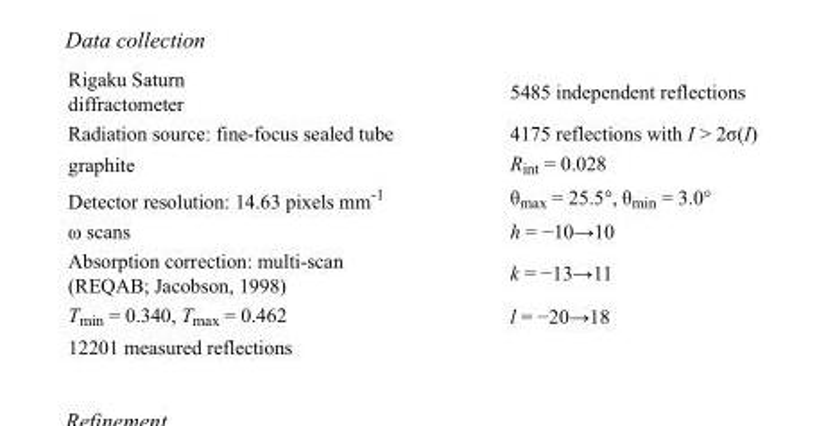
<table><tbody><tr><td>Rigaku Saturn diffractometer</td><td>5485 independent reflections</td></tr><tr><td>Radiation source: fine-focus sealed tube</td><td>4175 reflections with I &gt; 2σ(I)</td></tr><tr><td>graphite</td><td>R<sub>int</sub> = 0.028</td></tr><tr><td>Detector resolution: 14.63 pixels mm<sup>-1</sup></td><td>θ<sub>max</sub> = 25.5°, θ<sub>min</sub> = 3.0°</td></tr><tr><td>ω scans</td><td>h = −10→10</td></tr><tr><td>Absorption correction: multi-scan (REQAB; Jacobson, 1998)</td><td>k = −13→11</td></tr><tr><td>T<sub>min</sub> = 0.340, T<sub>max</sub> = 0.462</td><td>l = −20→18</td></tr><tr><td>12201 measured reflections</td><td></td></tr></tbody></table>